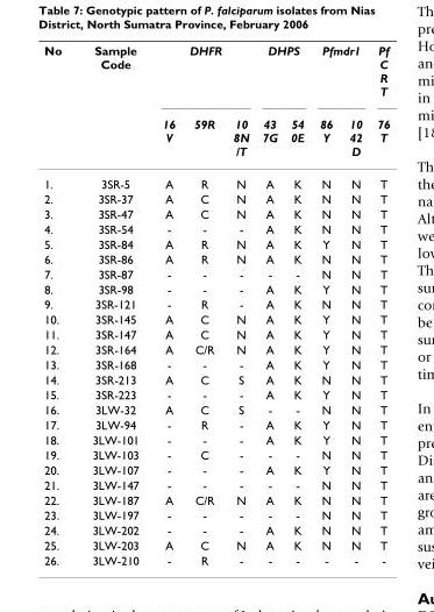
<table><thead><tr><td rowspan="2">No</td><td rowspan="2">Sample Code</td><td colspan="3">DHFR</td><td colspan="2">DHPS</td><td colspan="2">Pfmdr1</td><td rowspan="2">Pf C R T 76 T</td></tr><tr><td>16 V</td><td>59R</td><td>10 8N /T</td><td>43 7G</td><td>54 0E</td><td>86 Y</td><td>10 42 D</td></tr></thead><tbody><tr><td>1.</td><td>3SR-5</td><td>A</td><td>R</td><td>N</td><td>A</td><td>K</td><td>N</td><td>N</td><td>T</td></tr><tr><td>2.</td><td>3SR-37</td><td>A</td><td>C</td><td>N</td><td>A</td><td>K</td><td>N</td><td>N</td><td>T</td></tr><tr><td>3.</td><td>3SR-47</td><td>A</td><td>C</td><td>N</td><td>A</td><td>K</td><td>N</td><td>N</td><td>T</td></tr><tr><td>4.</td><td>3SR-54</td><td>-</td><td>-</td><td>-</td><td>A</td><td>K</td><td>N</td><td>N</td><td>T</td></tr><tr><td>5.</td><td>3SR-84</td><td>A</td><td>R</td><td>N</td><td>A</td><td>K</td><td>Y</td><td>N</td><td>T</td></tr><tr><td>6.</td><td>3SR-86</td><td>A</td><td>R</td><td>N</td><td>A</td><td>K</td><td>N</td><td>N</td><td>T</td></tr><tr><td>7.</td><td>3SR-87</td><td>-</td><td>-</td><td>-</td><td>-</td><td>-</td><td>N</td><td>N</td><td>T</td></tr><tr><td>8.</td><td>3SR-98</td><td>-</td><td>-</td><td>-</td><td>A</td><td>K</td><td>Y</td><td>N</td><td>T</td></tr><tr><td>9.</td><td>3SR-121</td><td>-</td><td>R</td><td>-</td><td>A</td><td>K</td><td>N</td><td>N</td><td>T</td></tr><tr><td>10.</td><td>3SR-145</td><td>A</td><td>C</td><td>N</td><td>A</td><td>K</td><td>Y</td><td>N</td><td>T</td></tr><tr><td>11.</td><td>3SR-147</td><td>A</td><td>C</td><td>N</td><td>A</td><td>K</td><td>Y</td><td>N</td><td>T</td></tr><tr><td>12.</td><td>3SR-164</td><td>A</td><td>C/R</td><td>N</td><td>A</td><td>K</td><td>Y</td><td>N</td><td>T</td></tr><tr><td>13.</td><td>3SR-168</td><td>-</td><td>-</td><td>-</td><td>A</td><td>K</td><td>Y</td><td>N</td><td>T</td></tr><tr><td>14.</td><td>3SR-213</td><td>A</td><td>C</td><td>S</td><td>A</td><td>K</td><td>N</td><td>N</td><td>T</td></tr><tr><td>15.</td><td>3SR-223</td><td>-</td><td>-</td><td>-</td><td>A</td><td>K</td><td>Y</td><td>N</td><td>T</td></tr><tr><td>16.</td><td>3LW-32</td><td>A</td><td>C</td><td>S</td><td>-</td><td>-</td><td>N</td><td>N</td><td>T</td></tr><tr><td>17.</td><td>3LW-94</td><td>-</td><td>R</td><td>-</td><td>A</td><td>K</td><td>Y</td><td>N</td><td>T</td></tr><tr><td>18.</td><td>3LW-101</td><td>-</td><td>-</td><td>-</td><td>A</td><td>K</td><td>Y</td><td>N</td><td>T</td></tr><tr><td>19.</td><td>3LW-103</td><td>-</td><td>C</td><td>-</td><td>-</td><td>-</td><td>N</td><td>N</td><td>T</td></tr><tr><td>20.</td><td>3LW-107</td><td>-</td><td>-</td><td>-</td><td>A</td><td>K</td><td>Y</td><td>N</td><td>T</td></tr><tr><td>21.</td><td>3LW-147</td><td>-</td><td>-</td><td>-</td><td>-</td><td>-</td><td>N</td><td>N</td><td>T</td></tr><tr><td>22.</td><td>3LW-187</td><td>A</td><td>C/R</td><td>N</td><td>A</td><td>K</td><td>N</td><td>N</td><td>T</td></tr><tr><td>23.</td><td>3LW-197</td><td>-</td><td>-</td><td>-</td><td>-</td><td>-</td><td>N</td><td>N</td><td>T</td></tr><tr><td>24.</td><td>3LW-202</td><td>-</td><td>-</td><td>-</td><td>A</td><td>K</td><td>N</td><td>N</td><td>T</td></tr><tr><td>25.</td><td>3LW-203</td><td>A</td><td>C</td><td>N</td><td>A</td><td>K</td><td>N</td><td>N</td><td>T</td></tr><tr><td>26.</td><td>3LW-210</td><td>-</td><td>R</td><td>-</td><td>-</td><td>-</td><td>-</td><td>-</td><td>-</td></tr></tbody></table>